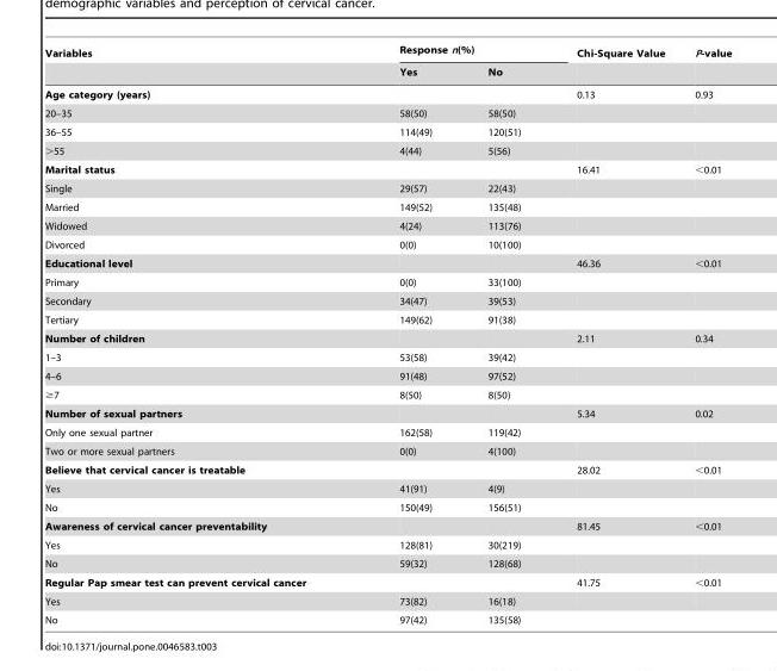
<table><thead><tr><td rowspan="2">Variables</td><td colspan="2">Response n(%)</td><td rowspan="2">Chi-Square Value</td><td rowspan="2">P-value</td></tr><tr><td>Yes</td><td>No</td></tr></thead><tbody><tr><td>Age category (years)</td><td></td><td></td><td>0.13</td><td>0.93</td></tr><tr><td>20–35</td><td>58(50)</td><td>58(50)</td><td></td><td></td></tr><tr><td>36–55</td><td>114(49)</td><td>120(51)</td><td></td><td></td></tr><tr><td>&gt;55</td><td>4(44)</td><td>5(56)</td><td></td><td></td></tr><tr><td>Marital status</td><td></td><td></td><td>16.41</td><td>&lt;0.01</td></tr><tr><td>Single</td><td>29(57)</td><td>22(43)</td><td></td><td></td></tr><tr><td>Married</td><td>149(52)</td><td>135(48)</td><td></td><td></td></tr><tr><td>Widowed</td><td>4(24)</td><td>113(76)</td><td></td><td></td></tr><tr><td>Divorced</td><td>0(0)</td><td>10(100)</td><td></td><td></td></tr><tr><td>Educational level</td><td></td><td></td><td>46.36</td><td>&lt;0.01</td></tr><tr><td>Primary</td><td>0(0)</td><td>33(100)</td><td></td><td></td></tr><tr><td>Secondary</td><td>34(47)</td><td>39(53)</td><td></td><td></td></tr><tr><td>Tertiary</td><td>149(62)</td><td>91(38)</td><td></td><td></td></tr><tr><td>Number of children</td><td></td><td></td><td>2.11</td><td>0.34</td></tr><tr><td>1–3</td><td>53(58)</td><td>39(42)</td><td></td><td></td></tr><tr><td>4–6</td><td>91(48)</td><td>97(52)</td><td></td><td></td></tr><tr><td>≥7</td><td>8(50)</td><td>8(50)</td><td></td><td></td></tr><tr><td>Number of sexual partners</td><td></td><td></td><td>5.34</td><td>0.02</td></tr><tr><td>Only one sexual partner</td><td>162(58)</td><td>119(42)</td><td></td><td></td></tr><tr><td>Two or more sexual partners</td><td>0(0)</td><td>4(100)</td><td></td><td></td></tr><tr><td>Believe that cervical cancer is treatable</td><td></td><td></td><td>28.02</td><td>&lt;0.01</td></tr><tr><td>Yes</td><td>41(91)</td><td>4(9)</td><td></td><td></td></tr><tr><td>No</td><td>150(49)</td><td>156(51)</td><td></td><td></td></tr><tr><td>Awareness of cervical cancer preventability</td><td></td><td></td><td>81.45</td><td>&lt;0.01</td></tr><tr><td>Yes</td><td>128(81)</td><td>30(219)</td><td></td><td></td></tr><tr><td>No</td><td>59(32)</td><td>128(68)</td><td></td><td></td></tr><tr><td>Regular Pap smear test can prevent cervical cancer</td><td></td><td></td><td>41.75</td><td>&lt;0.01</td></tr><tr><td>Yes</td><td>73(82)</td><td>16(18)</td><td></td><td></td></tr><tr><td>No</td><td>97(42)</td><td>135(58)</td><td></td><td></td></tr></tbody></table>